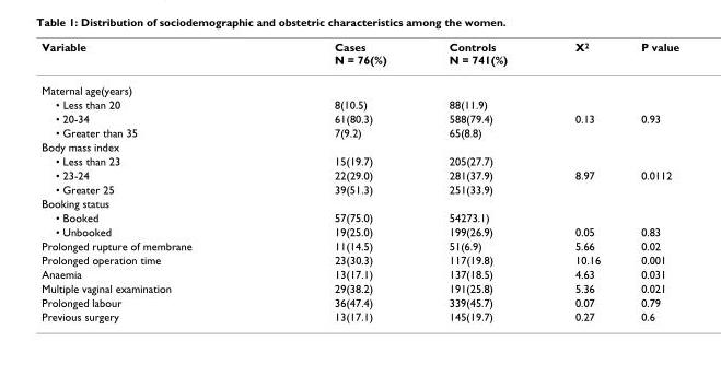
<table><thead><tr><td>Variable</td><td>Cases N = 76(%)</td><td>Controls N = 741(%)</td><td>X<sup>2</sup></td><td>P value</td></tr></thead><tbody><tr><td colspan="5">Maternal age(years)</td></tr><tr><td>• Less than 20</td><td>8(10.5)</td><td>88(11.9)</td><td></td><td></td></tr><tr><td>• 20-34</td><td>61(80.3)</td><td>588(79.4)</td><td>0.13</td><td>0.93</td></tr><tr><td>• Greater than 35</td><td>7(9.2)</td><td>65(8.8)</td><td></td><td></td></tr><tr><td colspan="5">Body mass index</td></tr><tr><td>• Less than 23</td><td>15(19.7)</td><td>205(27.7)</td><td></td><td></td></tr><tr><td>• 23-24</td><td>22(29.0)</td><td>281(37.9)</td><td>8.97</td><td>0.0112</td></tr><tr><td>• Greater 25</td><td>39(51.3)</td><td>251(33.9)</td><td></td><td></td></tr><tr><td colspan="5">Booking status</td></tr><tr><td>• Booked</td><td>57(75.0)</td><td>54273.1)</td><td></td><td></td></tr><tr><td>• Unbooked</td><td>19(25.0)</td><td>199(26.9)</td><td>0.05</td><td>0.83</td></tr><tr><td>Prolonged rupture of membrane</td><td>11(14.5)</td><td>51(6.9)</td><td>5.66</td><td>0.02</td></tr><tr><td>Prolonged operation time</td><td>23(30.3)</td><td>117(19.8)</td><td>10.16</td><td>0.001</td></tr><tr><td>Anaemia</td><td>13(17.1)</td><td>137(18.5)</td><td>4.63</td><td>0.031</td></tr><tr><td>Multiple vaginal examination</td><td>29(38.2)</td><td>191(25.8)</td><td>5.36</td><td>0.021</td></tr><tr><td>Prolonged labour</td><td>36(47.4)</td><td>339(45.7)</td><td>0.07</td><td>0.79</td></tr><tr><td>Previous surgery</td><td>13(17.1)</td><td>145(19.7)</td><td>0.27</td><td>0.6</td></tr></tbody></table>